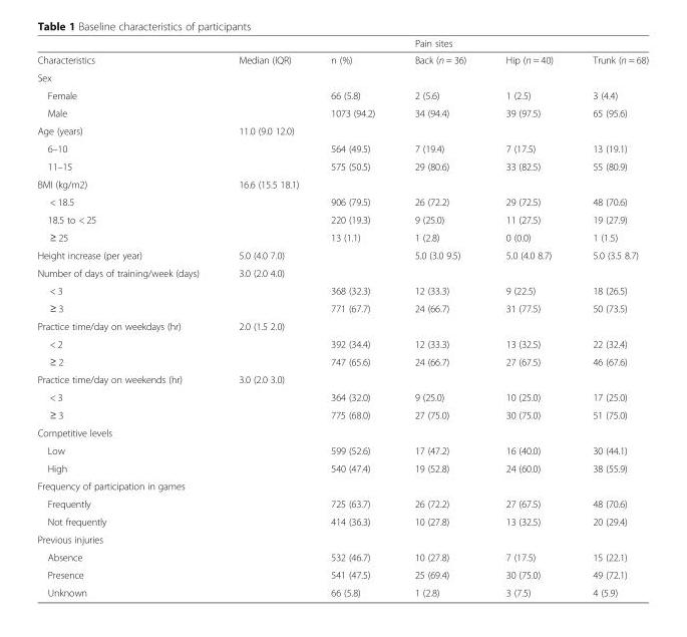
<table><thead><tr><td rowspan="2">Characteristics</td><td rowspan="2">Median (IQR)</td><td rowspan="2">n (%)</td><td colspan="3">Pain sites</td></tr><tr><td>Back (n = 36)</td><td>Hip (n = 40)</td><td>Trunk (n = 68)</td></tr></thead><tbody><tr><td colspan="6">Sex</td></tr><tr><td colspan="2">Female</td><td>66 (5.8)</td><td>2 (5.6)</td><td>1 (2.5)</td><td>3 (4.4)</td></tr><tr><td colspan="2">Male</td><td>1073 (94.2)</td><td>34 (94.4)</td><td>39 (97.5)</td><td>65 (95.6)</td></tr><tr><td>Age (years)</td><td colspan="5">11.0 (9.0 12.0)</td></tr><tr><td colspan="2">6–10</td><td>564 (49.5)</td><td>7 (19.4)</td><td>7 (17.5)</td><td>13 (19.1)</td></tr><tr><td colspan="2">11–15</td><td>575 (50.5)</td><td>29 (80.6)</td><td>33 (82.5)</td><td>55 (80.9)</td></tr><tr><td>BMI (kg/m2)</td><td colspan="5">16.6 (15.5 18.1)</td></tr><tr><td colspan="2">&lt; 18.5</td><td>906 (79.5)</td><td>26 (72.2)</td><td>29 (72.5)</td><td>48 (70.6)</td></tr><tr><td colspan="2">18.5 to &lt; 25</td><td>220 (19.3)</td><td>9 (25.0)</td><td>11 (27.5)</td><td>19 (27.9)</td></tr><tr><td colspan="2">≥ 25</td><td>13 (1.1)</td><td>1 (2.8)</td><td>0 (0.0)</td><td>1 (1.5)</td></tr><tr><td>Height increase (per year)</td><td colspan="2">5.0 (4.0 7.0)</td><td>5.0 (3.0 9.5)</td><td>5.0 (4.0 8.7)</td><td>5.0 (3.5 8.7)</td></tr><tr><td>Number of days of training/week (days)</td><td colspan="5">3.0 (2.0 4.0)</td></tr><tr><td colspan="2">&lt; 3</td><td>368 (32.3)</td><td>12 (33.3)</td><td>9 (22.5)</td><td>18 (26.5)</td></tr><tr><td colspan="2">≥ 3</td><td>771 (67.7)</td><td>24 (66.7)</td><td>31 (77.5)</td><td>50 (73.5)</td></tr><tr><td>Practice time/day on weekdays (hr)</td><td colspan="5">2.0 (1.5 2.0)</td></tr><tr><td colspan="2">&lt; 2</td><td>392 (34.4)</td><td>12 (33.3)</td><td>13 (32.5)</td><td>22 (32.4)</td></tr><tr><td colspan="2">≥ 2</td><td>747 (65.6)</td><td>24 (66.7)</td><td>27 (67.5)</td><td>46 (67.6)</td></tr><tr><td>Practice time/day on weekends (hr)</td><td colspan="5">3.0 (2.0 3.0)</td></tr><tr><td colspan="2">&lt; 3</td><td>364 (32.0)</td><td>9 (25.0)</td><td>10 (25.0)</td><td>17 (25.0)</td></tr><tr><td colspan="2">≥ 3</td><td>775 (68.0)</td><td>27 (75.0)</td><td>30 (75.0)</td><td>51 (75.0)</td></tr><tr><td colspan="6">Competitive levels</td></tr><tr><td colspan="2">Low</td><td>599 (52.6)</td><td>17 (47.2)</td><td>16 (40.0)</td><td>30 (44.1)</td></tr><tr><td colspan="2">High</td><td>540 (47.4)</td><td>19 (52.8)</td><td>24 (60.0)</td><td>38 (55.9)</td></tr><tr><td colspan="6">Frequency of participation in games</td></tr><tr><td colspan="2">Frequently</td><td>725 (63.7)</td><td>26 (72.2)</td><td>27 (67.5)</td><td>48 (70.6)</td></tr><tr><td colspan="2">Not frequently</td><td>414 (36.3)</td><td>10 (27.8)</td><td>13 (32.5)</td><td>20 (29.4)</td></tr><tr><td colspan="6">Previous injuries</td></tr><tr><td colspan="2">Absence</td><td>532 (46.7)</td><td>10 (27.8)</td><td>7 (17.5)</td><td>15 (22.1)</td></tr><tr><td colspan="2">Presence</td><td>541 (47.5)</td><td>25 (69.4)</td><td>30 (75.0)</td><td>49 (72.1)</td></tr><tr><td colspan="2">Unknown</td><td>66 (5.8)</td><td>1 (2.8)</td><td>3 (7.5)</td><td>4 (5.9)</td></tr></tbody></table>